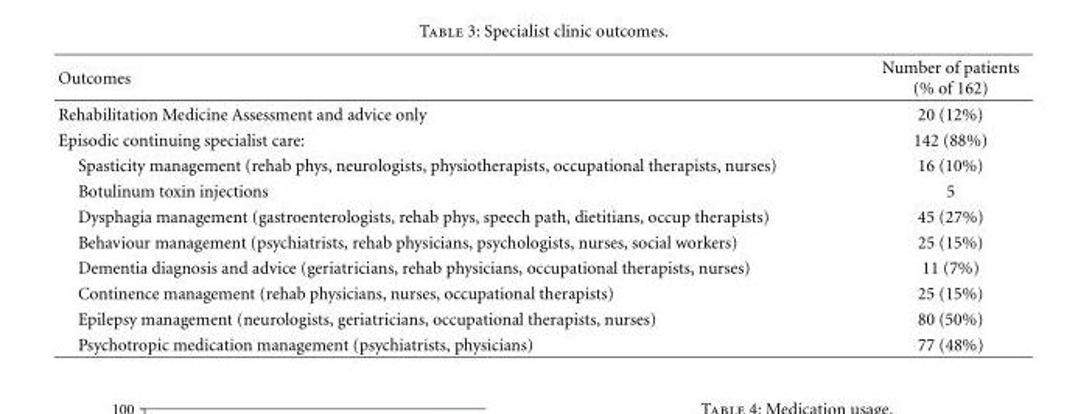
<table><thead><tr><td>Outcomes</td><td>Number of patients (% of 162)</td></tr></thead><tbody><tr><td>Rehabilitation Medicine Assessment and advice only</td><td>20 (12%)</td></tr><tr><td>Episodic continuing specialist care:</td><td>142 (88%)</td></tr><tr><td>Spasticity management (rehab phys, neurologists, physiotherapists, occupational therapists, nurses)</td><td>16 (10%)</td></tr><tr><td>Botulinum toxin injections</td><td>5</td></tr><tr><td>Dysphagia management (gastroenterologists, rehab phys, speech path, dietitians, occup therapists)</td><td>45 (27%)</td></tr><tr><td>Behaviour management (psychiatrists, rehab physicians, psychologists, nurses, social workers)</td><td>25 (15%)</td></tr><tr><td>Dementia diagnosis and advice (geriatricians, rehab physicians, occupational therapists, nurses)</td><td>11 (7%)</td></tr><tr><td>Continence management (rehab physicians, nurses, occupational therapists)</td><td>25 (15%)</td></tr><tr><td>Epilepsy management (neurologists, geriatricians, occupational therapists, nurses)</td><td>80 (50%)</td></tr><tr><td>Psychotropic medication management (psychiatrists, physicians)</td><td>77 (48%)</td></tr></tbody></table>